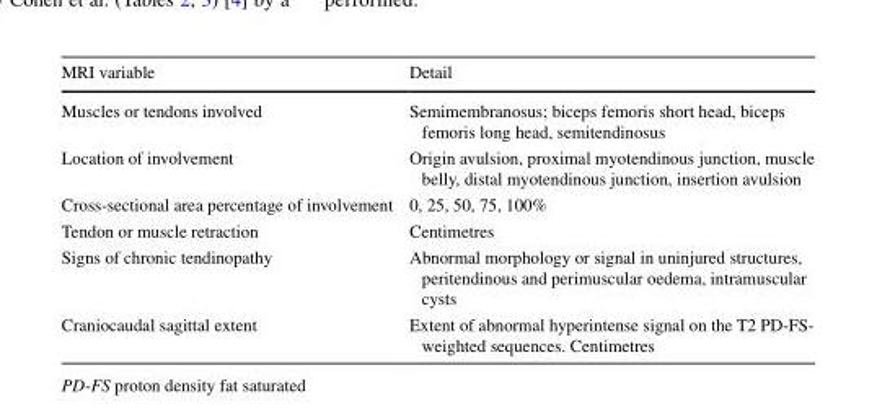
<table><thead><tr><td>MRI variable</td><td>Detail</td></tr></thead><tbody><tr><td>Muscles or tendons involved</td><td>Semimembranosus; biceps femoris short head, biceps femoris long head, semitendinosus</td></tr><tr><td>Location of involvement</td><td>Origin avulsion, proximal myotendinous junction, muscle belly, distal myotendinous junction, insertion avulsion</td></tr><tr><td>Cross-sectional area percentage of involvement</td><td>0, 25, 50, 75, 100%</td></tr><tr><td>Tendon or muscle retraction</td><td>Centimetres</td></tr><tr><td>Signs of chronic tendinopathy</td><td>Abnormal morphology or signal in uninjured structures, peritendinous and perimuscular oedema, intramuscular cysts</td></tr><tr><td>Craniocaudal sagittal extent</td><td>Extent of abnormal hyperintense signal on the T2 PD-FS- weighted sequences. Centimetres</td></tr></tbody></table>